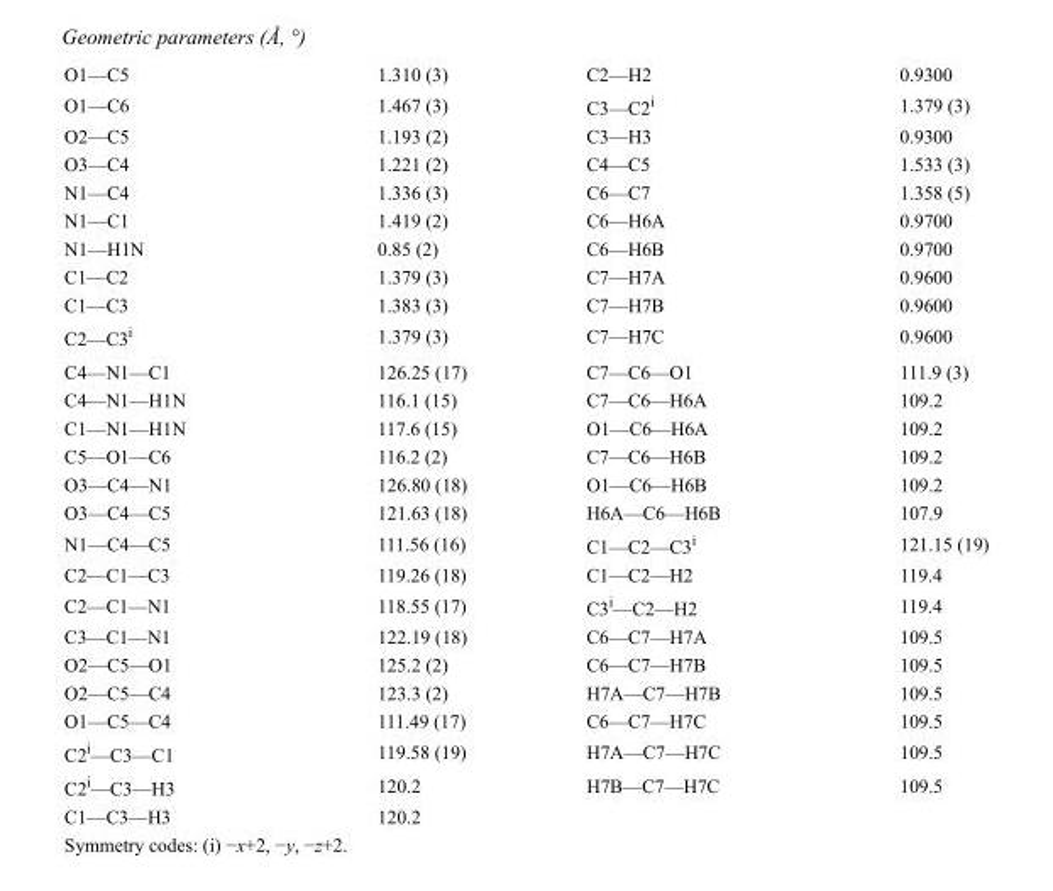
<table><tbody><tr><td>O1—C5</td><td>1.310 (3)</td><td>C2—H2</td><td>0.9300</td></tr><tr><td>O1—C6</td><td>1.467 (3)</td><td>C3—C2<sup>i</sup></td><td>1.379 (3)</td></tr><tr><td>O2—C5</td><td>1.193 (2)</td><td>C3—H3</td><td>0.9300</td></tr><tr><td>O3—C4</td><td>1.221 (2)</td><td>C4—C5</td><td>1.533 (3)</td></tr><tr><td>N1—C4</td><td>1.336 (3)</td><td>C6—C7</td><td>1.358 (5)</td></tr><tr><td>N1—C1</td><td>1.419 (2)</td><td>C6—H6A</td><td>0.9700</td></tr><tr><td>N1—H1N</td><td>0.85 (2)</td><td>C6—H6B</td><td>0.9700</td></tr><tr><td>C1—C2</td><td>1.379 (3)</td><td>C7—H7A</td><td>0.9600</td></tr><tr><td>C1—C3</td><td>1.383 (3)</td><td>C7—H7B</td><td>0.9600</td></tr><tr><td>C2—C3<sup>i</sup></td><td>1.379 (3)</td><td>C7—H7C</td><td>0.9600</td></tr><tr><td>C4—N1—C1</td><td>126.25 (17)</td><td>C7—C6—O1</td><td>111.9 (3)</td></tr><tr><td>C4—N1—H1N</td><td>116.1 (15)</td><td>C7—C6—H6A</td><td>109.2</td></tr><tr><td>C1—N1—H1N</td><td>117.6 (15)</td><td>O1—C6—H6A</td><td>109.2</td></tr><tr><td>C5—O1—C6</td><td>116.2 (2)</td><td>C7—C6—H6B</td><td>109.2</td></tr><tr><td>O3—C4—N1</td><td>126.80 (18)</td><td>O1—C6—H6B</td><td>109.2</td></tr><tr><td>O3—C4—C5</td><td>121.63 (18)</td><td>H6A—C6—H6B</td><td>107.9</td></tr><tr><td>N1—C4—C5</td><td>111.56 (16)</td><td>C1—C2—C3<sup>i</sup></td><td>121.15 (19)</td></tr><tr><td>C2—C1—C3</td><td>119.26 (18)</td><td>C1—C2—H2</td><td>119.4</td></tr><tr><td>C2—C1—N1</td><td>118.55 (17)</td><td>C3<sup>i</sup>—C2—H2</td><td>119.4</td></tr><tr><td>C3—C1—N1</td><td>122.19 (18)</td><td>C6—C7—H7A</td><td>109.5</td></tr><tr><td>O2—C5—O1</td><td>125.2 (2)</td><td>C6—C7—H7B</td><td>109.5</td></tr><tr><td>O2—C5—C4</td><td>123.3 (2)</td><td>H7A—C7—H7B</td><td>109.5</td></tr><tr><td>O1—C5—C4</td><td>111.49 (17)</td><td>C6—C7—H7C</td><td>109.5</td></tr><tr><td>C2<sup>i</sup>—C3—C1</td><td>119.58 (19)</td><td>H7A—C7—H7C</td><td>109.5</td></tr><tr><td>C2<sup>i</sup>—C3—H3</td><td>120.2</td><td>H7B—C7—H7C</td><td>109.5</td></tr><tr><td>C1—C3—H3</td><td>120.2</td><td></td><td></td></tr></tbody></table>